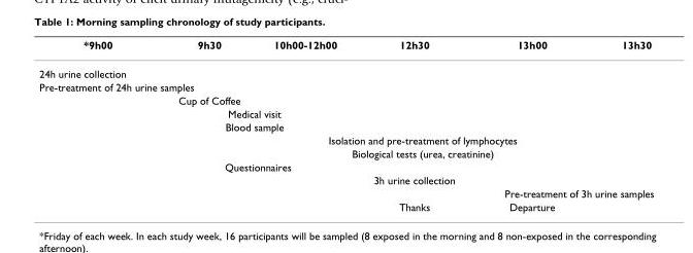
<table><thead><tr><td>*9h00</td><td>9h30</td><td>10h00-12h00</td><td>12h30</td><td>13h00</td><td>13h30</td></tr></thead><tbody><tr><td colspan="6">24h urine collection</td></tr><tr><td colspan="6">Pre-treatment of 24h urine samples</td></tr><tr><td></td><td>Cup of Coffee</td><td></td><td></td><td></td><td></td></tr><tr><td colspan="6">Medical visit</td></tr><tr><td colspan="6">Blood sample</td></tr><tr><td></td><td colspan="5">Isolation and pre-treatment of lymphocytes</td></tr><tr><td></td><td colspan="5">Biological tests (urea, creatinine)</td></tr><tr><td></td><td colspan="2">Questionnaires</td><td></td><td></td><td></td></tr><tr><td></td><td></td><td></td><td>3h urine collection</td><td></td><td></td></tr><tr><td></td><td></td><td></td><td></td><td colspan="2">Pre-treatment of 3h urine samples</td></tr><tr><td></td><td></td><td></td><td>Thanks</td><td>Departure</td><td></td></tr></tbody></table>